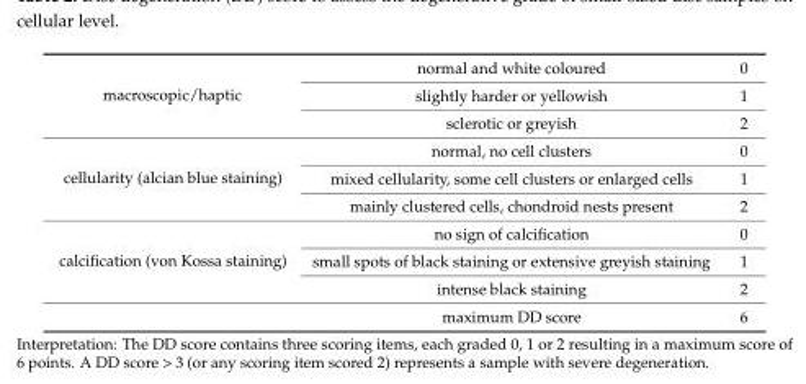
<table><tbody><tr><td rowspan="3">macroscopic/haptic</td><td>normal and white coloured</td><td>0</td></tr><tr><td>slightly harder or yellowish</td><td>1</td></tr><tr><td>sclerotic or greyish</td><td>2</td></tr><tr><td rowspan="3">cellularity (alcian blue staining)</td><td>normal, no cell clusters</td><td>0</td></tr><tr><td>mixed cellularity, some cell clusters or enlarged cells</td><td>1</td></tr><tr><td>mainly clustered cells, chondroid nests present</td><td>2</td></tr><tr><td rowspan="4">calcification (von Kossa staining)</td><td>no sign of calcification</td><td>0</td></tr><tr><td>small spots of black staining or extensive greyish staining</td><td>1</td></tr><tr><td>intense black staining</td><td>2</td></tr><tr><td>maximum DD score</td><td>6</td></tr></tbody></table>